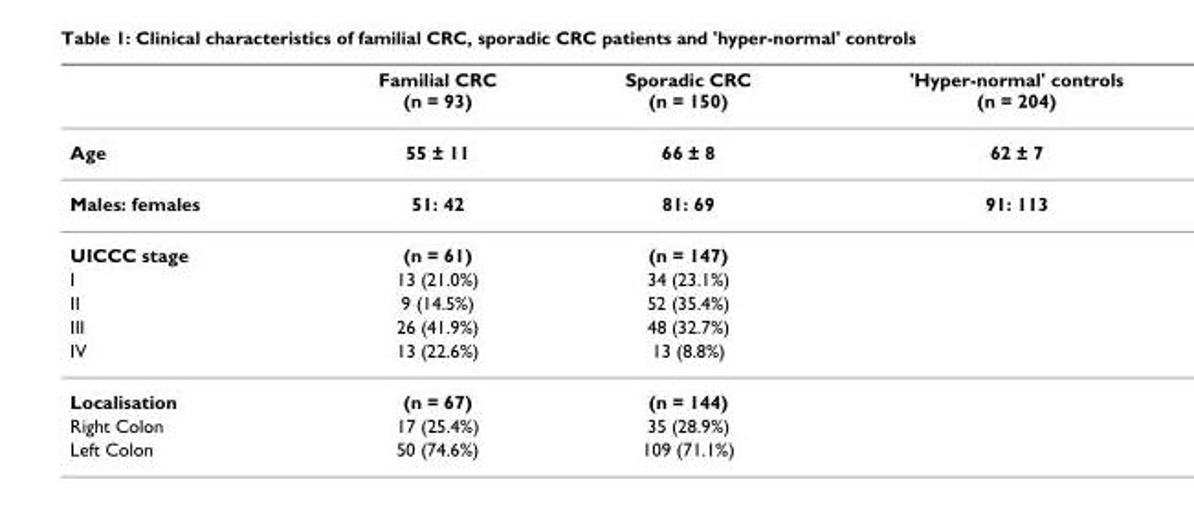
<table><thead><tr><td></td><td>Familial CRC (n = 93)</td><td>Sporadic CRC (n = 150)</td><td>&#x27;Hyper-normal&#x27; controls (n = 204)</td></tr></thead><tbody><tr><td>Age</td><td>55 ± 11</td><td>66 ± 8</td><td>62 ± 7</td></tr><tr><td>Males: females</td><td>51: 42</td><td>81: 69</td><td>91: 113</td></tr><tr><td>UICCC stage</td><td>(n = 61)</td><td>(n = 147)</td><td></td></tr><tr><td>I</td><td>13 (21.0%)</td><td>34 (23.1%)</td><td></td></tr><tr><td>II</td><td>9 (14.5%)</td><td>52 (35.4%)</td><td></td></tr><tr><td>III</td><td>26 (41.9%)</td><td>48 (32.7%)</td><td></td></tr><tr><td>IV</td><td>13 (22.6%)</td><td>13 (8.8%)</td><td></td></tr><tr><td>Localisation</td><td>(n = 67)</td><td>(n = 144)</td><td></td></tr><tr><td>Right Colon</td><td>17 (25.4%)</td><td>35 (28.9%)</td><td></td></tr><tr><td>Left Colon</td><td>50 (74.6%)</td><td>109 (71.1%)</td><td></td></tr></tbody></table>